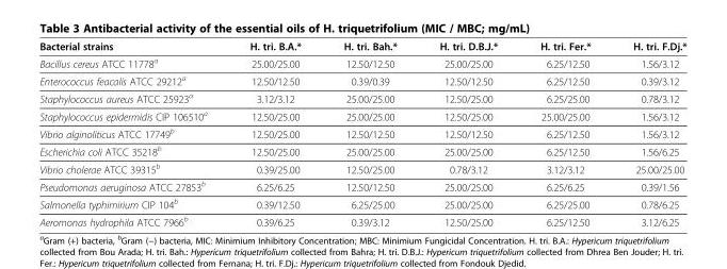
<table><thead><tr><td>Bacterial strains</td><td>H. tri. B.A.*</td><td>H. tri. Bah.*</td><td>H. tri. D.B.J.*</td><td>H. tri. Fer.*</td><td>H. tri. F.Dj.*</td></tr></thead><tbody><tr><td>Bacillus cereus ATCC 11778<sup>a</sup></td><td>25.00/25.00</td><td>12.50/12.50</td><td>25.00/25.00</td><td>6.25/12.50</td><td>1.56/3.12</td></tr><tr><td>Enterococcus feacalis ATCC 29212<sup>a</sup></td><td>12.50/12.50</td><td>0.39/0.39</td><td>12.50/12.50</td><td>6.25/12.50</td><td>0.39/3.12</td></tr><tr><td>Staphylococcus aureus ATCC 25923<sup>a</sup></td><td>3.12/3.12</td><td>25.00/25.00</td><td>12.50/25.00</td><td>6.25/25.00</td><td>0.78/3.12</td></tr><tr><td>Staphylococcus epidermidis CIP 106510<sup>a</sup></td><td>12.50/25.00</td><td>25.00/25.00</td><td>12.50/25.00</td><td>25.00/25.00</td><td>1.56/3.12</td></tr><tr><td>Vibrio alginoliticus ATCC 17749<sup>b</sup></td><td>12.50/25.00</td><td>12.50/12.50</td><td>12.50/12.50</td><td>6.25/12.50</td><td>1.56/3.12</td></tr><tr><td>Escherichia coli ATCC 35218<sup>b</sup></td><td>12.50/25.00</td><td>25.00/25.00</td><td>25.00/25.00</td><td>6.25/12.50</td><td>1.56/6.25</td></tr><tr><td>Vibrio cholerae ATCC 39315<sup>b</sup></td><td>0.39/25.00</td><td>12.50/25.00</td><td>0.78/3.12</td><td>3.12/3.12</td><td>25.00/25.00</td></tr><tr><td>Pseudomonas aeruginosa ATCC 27853<sup>b</sup></td><td>6.25/6.25</td><td>12.50/12.50</td><td>25.00/25.00</td><td>6.25/6.25</td><td>0.39/1.56</td></tr><tr><td>Salmonella typhimirium CIP 104<sup>b</sup></td><td>0.39/12.50</td><td>6.25/25.00</td><td>25.00/25.00</td><td>6.25/25.00</td><td>0.78/6.25</td></tr><tr><td>Aeromonas hydrophila ATCC 7966<sup>b</sup></td><td>0.39/6.25</td><td>0.39/3.12</td><td>12.50/25.00</td><td>6.25/12.50</td><td>3.12/6.25</td></tr></tbody></table>